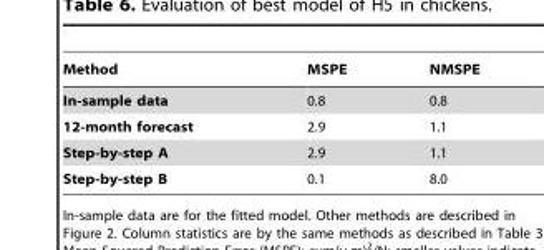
<table><thead><tr><td>Method</td><td>MSPE</td><td>NMSPE</td></tr></thead><tbody><tr><td>In-sample data</td><td>0.8</td><td>0.8</td></tr><tr><td>12-month forecast</td><td>2.9</td><td>1.1</td></tr><tr><td>Step-by-step A</td><td>2.9</td><td>1.1</td></tr><tr><td>Step-by-step B</td><td>0.1</td><td>8.0</td></tr></tbody></table>